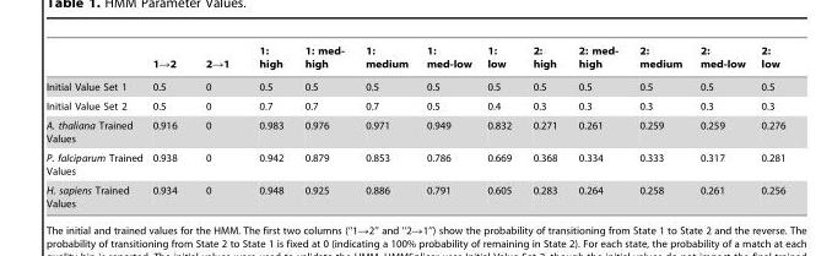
<table><thead><tr><td></td><td>1→2</td><td>2→1</td><td>1: high</td><td>1: med- high</td><td>1: medium</td><td>1: med-low</td><td>1: low</td><td>2: high</td><td>2: med- high</td><td>2: medium</td><td>2: med-low</td><td>2: low</td></tr></thead><tbody><tr><td>Initial Value Set 1</td><td>0.5</td><td>0</td><td>0.5</td><td>0.5</td><td>0.5</td><td>0.5</td><td>0.5</td><td>0.5</td><td>0.5</td><td>0.5</td><td>0.5</td><td>0.5</td></tr><tr><td>Initial Value Set 2</td><td>0.5</td><td>0</td><td>0.7</td><td>0.7</td><td>0.7</td><td>0.5</td><td>0.4</td><td>0.3</td><td>0.3</td><td>0.3</td><td>0.3</td><td>0.3</td></tr><tr><td>A. thaliana Trained Values</td><td>0.916</td><td>0</td><td>0.983</td><td>0.976</td><td>0.971</td><td>0.949</td><td>0.832</td><td>0.271</td><td>0.261</td><td>0.259</td><td>0.259</td><td>0.276</td></tr><tr><td>P. falciparum Trained Values</td><td>0.938</td><td>0</td><td>0.942</td><td>0.879</td><td>0.853</td><td>0.786</td><td>0.669</td><td>0.368</td><td>0.334</td><td>0.333</td><td>0.317</td><td>0.281</td></tr><tr><td>H. sapiens Trained Values</td><td>0.934</td><td>0</td><td>0.948</td><td>0.925</td><td>0.886</td><td>0.791</td><td>0.605</td><td>0.283</td><td>0.264</td><td>0.258</td><td>0.261</td><td>0.256</td></tr></tbody></table>